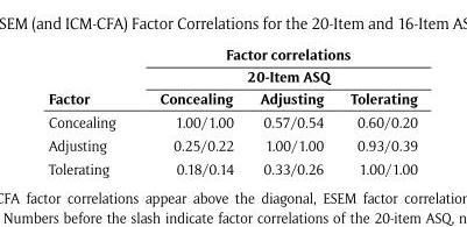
<table><thead><tr><td rowspan="3">Factor</td><td rowspan="2" colspan="3">Factor correlations 20-Item ASQ</td></tr><tr></tr><tr><td>Concealing</td><td>Adjusting</td><td>Tolerating</td></tr></thead><tbody><tr><td>Concealing</td><td>1.00/1.00</td><td>0.57/0.54</td><td>0.60/0.20</td></tr><tr><td>Adjusting</td><td>0.25/0.22</td><td>1.00/1.00</td><td>0.93/0.39</td></tr><tr><td>Tolerating</td><td>0.18/0.14</td><td>0.33/0.26</td><td>1.00/1.00</td></tr></tbody></table>